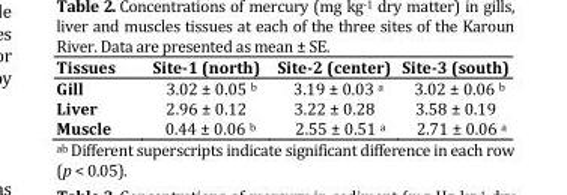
<table><thead><tr><td>Tissues</td><td>Site-1 (north)</td><td>Site-2 (center)</td><td>Site-3 (south)</td></tr></thead><tbody><tr><td>Gill</td><td>3.02 ± 0.05 b</td><td>3.19 ± 0.03 a</td><td>3.02 ± 0.06 b</td></tr><tr><td>Liver</td><td>2.96 ± 0.12</td><td>3.22 ± 0.28</td><td>3.58 ± 0.19</td></tr><tr><td>Muscle</td><td>0.44 ± 0.06 b</td><td>2.55 ± 0.51 a</td><td>2.71 ± 0.06 a</td></tr></tbody></table>